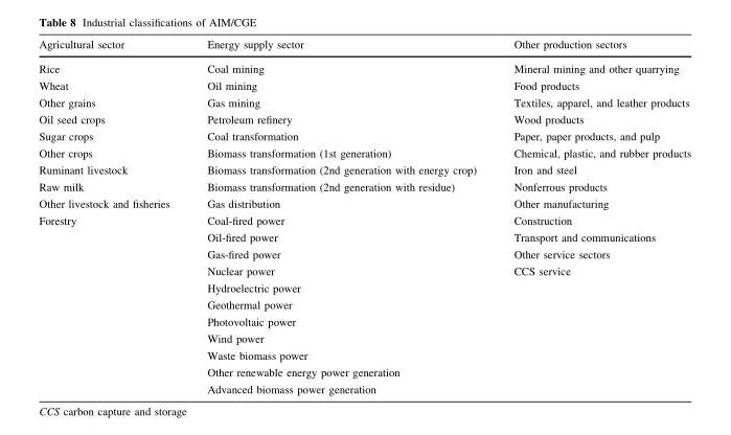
<table><thead><tr><td>Agricultural sector</td><td>Energy supply sector</td><td>Other production sectors</td></tr></thead><tbody><tr><td>Rice</td><td>Coal mining</td><td>Mineral mining and other quarrying</td></tr><tr><td>Wheat</td><td>Oil mining</td><td>Food products</td></tr><tr><td>Other grains</td><td>Gas mining</td><td>Textiles, apparel, and leather products</td></tr><tr><td>Oil seed crops</td><td>Petroleum refinery</td><td>Wood products</td></tr><tr><td>Sugar crops</td><td>Coal transformation</td><td>Paper, paper products, and pulp</td></tr><tr><td>Other crops</td><td>Biomass transformation (1st generation)</td><td>Chemical, plastic, and rubber products</td></tr><tr><td>Ruminant livestock</td><td>Biomass transformation (2nd generation with energy crop)</td><td>Iron and steel</td></tr><tr><td>Raw milk</td><td>Biomass transformation (2nd generation with residue)</td><td>Nonferrous products</td></tr><tr><td>Other livestock and fisheries</td><td>Gas distribution</td><td>Other manufacturing</td></tr><tr><td rowspan="11">Forestry</td><td>Coal-fired power</td><td>Construction</td></tr><tr><td>Oil-fired power</td><td>Transport and communications</td></tr><tr><td>Gas-fired power</td><td>Other service sectors</td></tr><tr><td>Nuclear power</td><td>CCS service</td></tr><tr><td>Hydroelectric power</td><td></td></tr><tr><td>Geothermal power</td><td></td></tr><tr><td>Photovoltaic power</td><td></td></tr><tr><td>Wind power</td><td></td></tr><tr><td>Waste biomass power</td><td></td></tr><tr><td>Other renewable energy power generation</td><td></td></tr><tr><td>Advanced biomass power generation</td><td></td></tr></tbody></table>